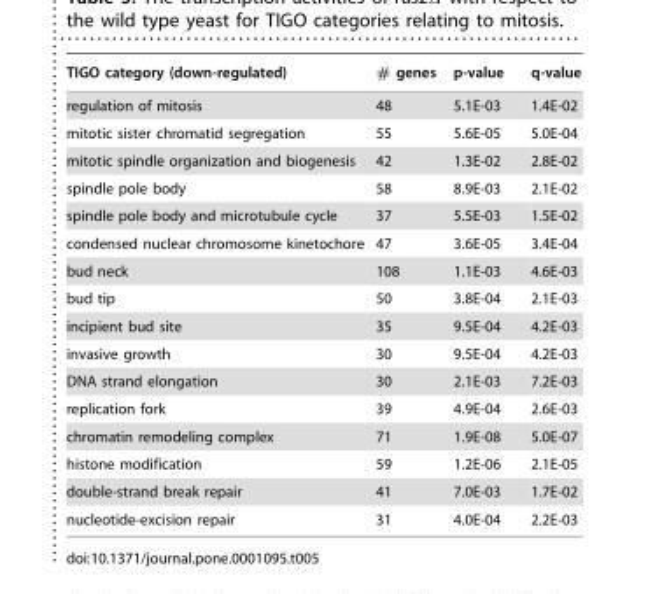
<table><thead><tr><td>TIGO category (down-regulated)</td><td># genes</td><td>p-value</td><td>q-value</td></tr></thead><tbody><tr><td>regulation of mitosis</td><td>48</td><td>5.1E-03</td><td>1.4E-02</td></tr><tr><td>mitotic sister chromatid segregation</td><td>55</td><td>5.6E-05</td><td>5.0E-04</td></tr><tr><td>mitotic spindle organization and biogenesis</td><td>42</td><td>1.3E-02</td><td>2.8E-02</td></tr><tr><td>spindle pole body</td><td>58</td><td>8.9E-03</td><td>2.1E-02</td></tr><tr><td>spindle pole body and microtubule cycle</td><td>37</td><td>5.5E-03</td><td>1.5E-02</td></tr><tr><td>condensed nuclear chromosome kinetochore</td><td>47</td><td>3.6E-05</td><td>3.4E-04</td></tr><tr><td>bud neck</td><td>108</td><td>1.1E-03</td><td>4.6E-03</td></tr><tr><td>bud tip</td><td>50</td><td>3.8E-04</td><td>2.1E-03</td></tr><tr><td>incipient bud site</td><td>35</td><td>9.5E-04</td><td>4.2E-03</td></tr><tr><td>invasive growth</td><td>30</td><td>9.5E-04</td><td>4.2E-03</td></tr><tr><td>DNA strand elongation</td><td>30</td><td>2.1E-03</td><td>7.2E-03</td></tr><tr><td>replication fork</td><td>39</td><td>4.9E-04</td><td>2.6E-03</td></tr><tr><td>chromatin remodeling complex</td><td>71</td><td>1.9E-08</td><td>5.0E-07</td></tr><tr><td>histone modification</td><td>59</td><td>1.2E-06</td><td>2.1E-05</td></tr><tr><td>double-strand break repair</td><td>41</td><td>7.0E-03</td><td>1.7E-02</td></tr><tr><td>nucleotide-excision repair</td><td>31</td><td>4.0E-04</td><td>2.2E-03</td></tr></tbody></table>